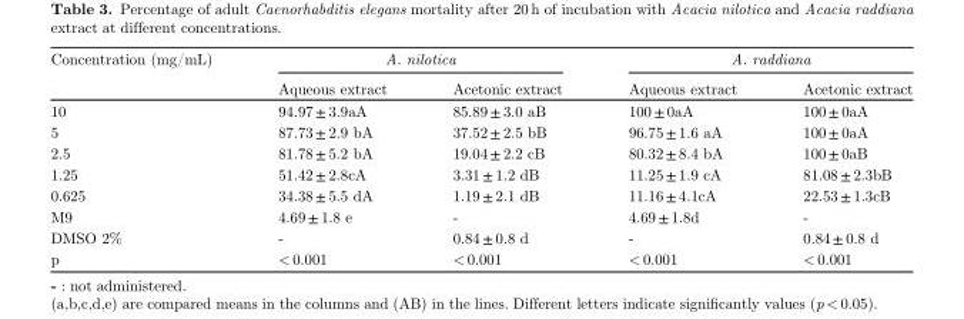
<table><thead><tr><td rowspan="2">Concentration (mg/mL)</td><td colspan="2">A. nilotica</td><td colspan="2">A. raddiana</td></tr><tr><td>Aqueous extract</td><td>Acetonic extract</td><td>Aqueous extract</td><td>Acetonic extract</td></tr></thead><tbody><tr><td>10</td><td>94.97 ± 3.9aA</td><td>85.89 ± 3.0 aB</td><td>100 ± 0aA</td><td>100 ± 0aA</td></tr><tr><td>5</td><td>87.73 ± 2.9 bA</td><td>37.52 ± 2.5 bB</td><td>96.75 ± 1.6 aA</td><td>100 ± 0aA</td></tr><tr><td>2.5</td><td>81.78 ± 5.2 bA</td><td>19.04 ± 2.2 cB</td><td>80.32 ± 8.4 bA</td><td>100 ± 0aB</td></tr><tr><td>1.25</td><td>51.42 ± 2.8cA</td><td>3.31 ± 1.2 dB</td><td>11.25 ± 1.9 cA</td><td>81.08 ± 2.3bB</td></tr><tr><td>0.625</td><td>34.38 ± 5.5 dA</td><td>1.19 ± 2.1 dB</td><td>11.16 ± 4.1cA</td><td>22.53 ± 1.3cB</td></tr><tr><td>M9</td><td>4.69 ± 1.8 e</td><td>-</td><td>4.69 ± 1.8d</td><td>-</td></tr><tr><td>DMSO 2%</td><td>-</td><td>0.84 ± 0.8 d</td><td>-</td><td>0.84 ± 0.8 d</td></tr><tr><td>p</td><td>&lt; 0.001</td><td>&lt; 0.001</td><td>&lt; 0.001</td><td>&lt; 0.001</td></tr></tbody></table>